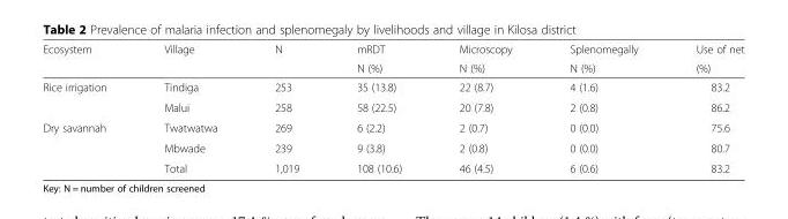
<table><thead><tr><td rowspan="2">Ecosystem</td><td rowspan="2">Village</td><td rowspan="2">N</td><td rowspan="2">mRDT N (%)</td><td rowspan="2">Microscopy N (%)</td><td rowspan="2">Splenomegally N (%)</td><td rowspan="2">Use of net (%)</td></tr><tr></tr></thead><tbody><tr><td rowspan="2">Rice irrigation</td><td>Tindiga</td><td>253</td><td>35 (13.8)</td><td>22 (8.7)</td><td>4 (1.6)</td><td>83.2</td></tr><tr><td>Malui</td><td>258</td><td>58 (22.5)</td><td>20 (7.8)</td><td>2 (0.8)</td><td>86.2</td></tr><tr><td rowspan="3">Dry savannah</td><td>Twatwatwa</td><td>269</td><td>6 (2.2)</td><td>2 (0.7)</td><td>0 (0.0)</td><td>75.6</td></tr><tr><td>Mbwade</td><td>239</td><td>9 (3.8)</td><td>2 (0.8)</td><td>0 (0.0)</td><td>80.7</td></tr><tr><td>Total</td><td>1,019</td><td>108 (10.6)</td><td>46 (4.5)</td><td>6 (0.6)</td><td>83.2</td></tr></tbody></table>